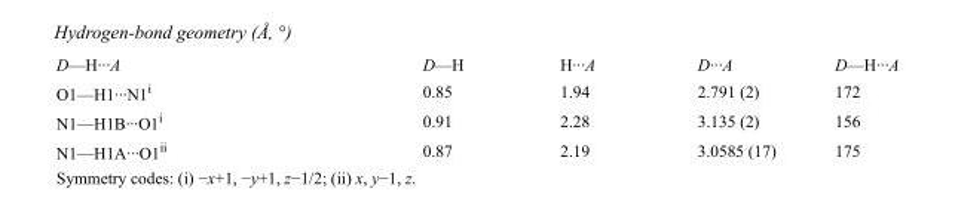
<table><tbody><tr><td>D—H···A</td><td>D—H</td><td>H···A</td><td>D···A</td><td>D—H···A</td></tr><tr><td>O1—H1···N1<sup>i</sup></td><td>0.85</td><td>1.94</td><td>2.791 (2)</td><td>172</td></tr><tr><td>N1—H1B···O1<sup>i</sup></td><td>0.91</td><td>2.28</td><td>3.135 (2)</td><td>156</td></tr><tr><td>N1—H1A···O1<sup>ii</sup></td><td>0.87</td><td>2.19</td><td>3.0585 (17)</td><td>175</td></tr></tbody></table>